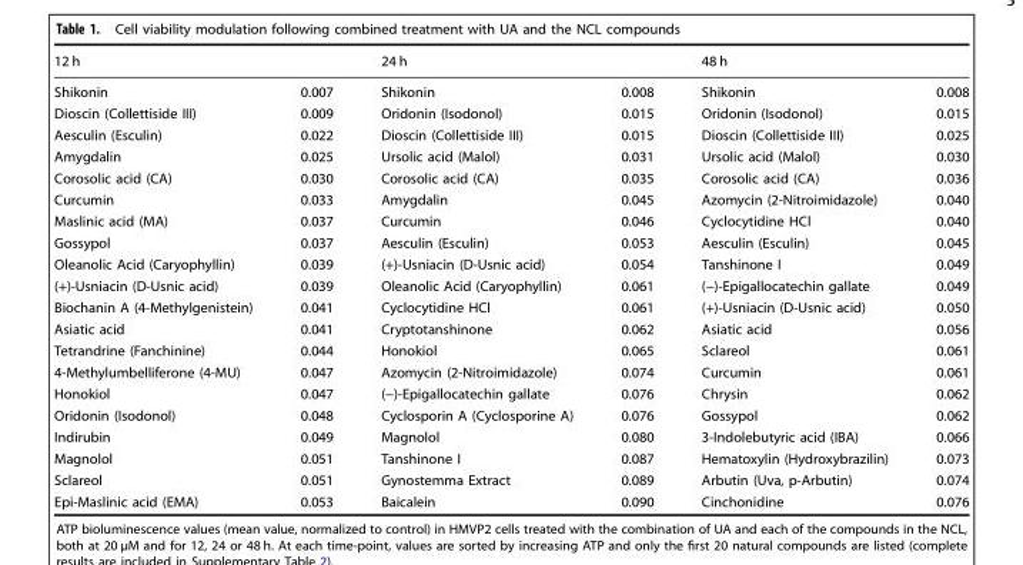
<table><thead><tr><td colspan="2">12 h</td><td colspan="2">24 h</td><td colspan="2">48 h</td></tr><tr><td>Shikonin</td><td>0.007</td><td>Shikonin</td><td>0.008</td><td>Shikonin</td><td>0.008</td></tr></thead><tbody><tr><td>Dioscin (Collettiside III)</td><td>0.009</td><td>Oridonin (Isodonol)</td><td>0.015</td><td>Oridonin (Isodonol)</td><td>0.015</td></tr><tr><td>Aesculin (Esculin)</td><td>0.022</td><td>Dioscin (Collettiside III)</td><td>0.015</td><td>Dioscin (Collettiside III)</td><td>0.025</td></tr><tr><td>Amygdalin</td><td>0.025</td><td>Ursolic acid (Malol)</td><td>0.031</td><td>Ursolic acid (Malol)</td><td>0.030</td></tr><tr><td>Corosolic acid (CA)</td><td>0.030</td><td>Corosolic acid (CA)</td><td>0.035</td><td>Corosolic acid (CA)</td><td>0.036</td></tr><tr><td>Curcumin</td><td>0.033</td><td>Amygdalin</td><td>0.045</td><td>Azomycin (2-Nitroimidazole)</td><td>0.040</td></tr><tr><td>Maslinic acid (MA)</td><td>0.037</td><td>Curcumin</td><td>0.046</td><td>Cyclocytidine HCl</td><td>0.040</td></tr><tr><td>Gossypol</td><td>0.037</td><td>Aesculin (Esculin)</td><td>0.053</td><td>Aesculin (Esculin)</td><td>0.045</td></tr><tr><td>Oleanolic Acid (Caryophyllin)</td><td>0.039</td><td>(+)-Usniacin (D-Usnic acid)</td><td>0.054</td><td>Tanshinone I</td><td>0.049</td></tr><tr><td>(+)-Usniacin (D-Usnic acid)</td><td>0.039</td><td>Oleanolic Acid (Caryophyllin)</td><td>0.061</td><td>(−)-Epigallocatechin gallate</td><td>0.049</td></tr><tr><td>Biochanin A (4-Methylgenistein)</td><td>0.041</td><td>Cyclocytidine HCl</td><td>0.061</td><td>(+)-Usniacin (D-Usnic acid)</td><td>0.050</td></tr><tr><td>Asiatic acid</td><td>0.041</td><td>Cryptotanshinone</td><td>0.062</td><td>Asiatic acid</td><td>0.056</td></tr><tr><td>Tetrandrine (Fanchinine)</td><td>0.044</td><td>Honokiol</td><td>0.065</td><td>Sclareol</td><td>0.061</td></tr><tr><td>4-Methylumbelliferone (4-MU)</td><td>0.047</td><td>Azomycin (2-Nitroimidazole)</td><td>0.074</td><td>Curcumin</td><td>0.061</td></tr><tr><td>Honokiol</td><td>0.047</td><td>(−)-Epigallocatechin gallate</td><td>0.076</td><td>Chrysin</td><td>0.062</td></tr><tr><td>Oridonin (Isodonol)</td><td>0.048</td><td>Cyclosporin A (Cyclosporine A)</td><td>0.076</td><td>Gossypol</td><td>0.062</td></tr><tr><td>Indirubin</td><td>0.049</td><td>Magnolol</td><td>0.080</td><td>3-Indolebutyric acid (IBA)</td><td>0.066</td></tr><tr><td>Magnolol</td><td>0.051</td><td>Tanshinone I</td><td>0.087</td><td>Hematoxylin (Hydroxybrazilin)</td><td>0.073</td></tr><tr><td>Sclareol</td><td>0.051</td><td>Gynostemma Extract</td><td>0.089</td><td>Arbutin (Uva, p-Arbutin)</td><td>0.074</td></tr><tr><td>Epi-Maslinic acid (EMA)</td><td>0.053</td><td>Baicalein</td><td>0.090</td><td>Cinchonidine</td><td>0.076</td></tr></tbody></table>